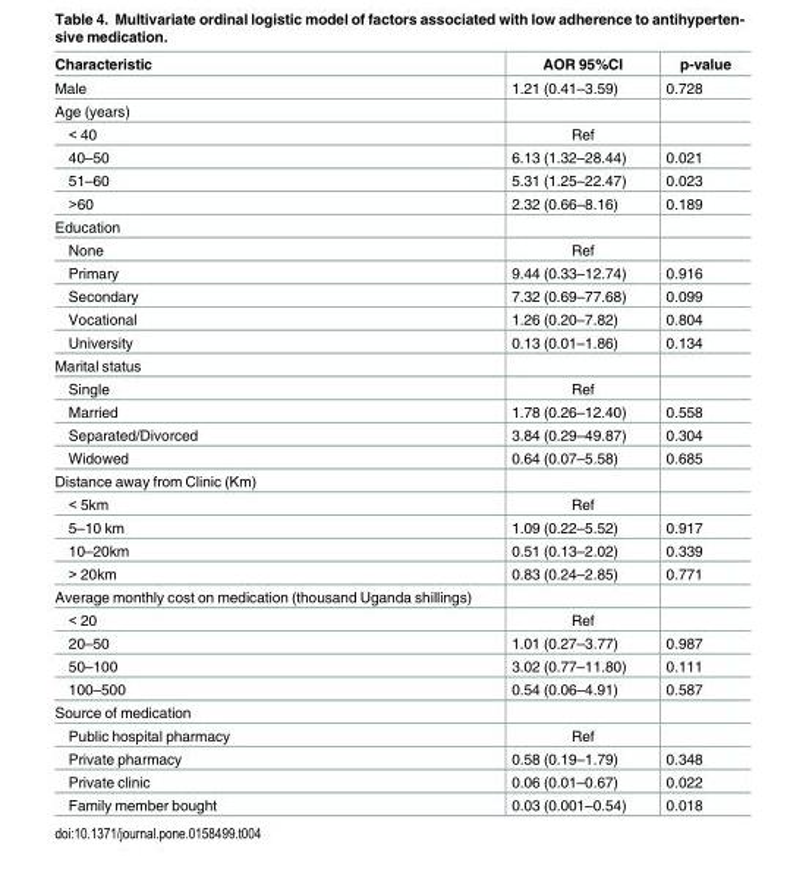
<table><thead><tr><td>Characteristic</td><td>AOR 95%CI</td><td>p-value</td></tr></thead><tbody><tr><td>Male</td><td>1.21 (0.41–3.59)</td><td>0.728</td></tr><tr><td colspan="3">Age (years)</td></tr><tr><td>&lt; 40</td><td>Ref</td><td></td></tr><tr><td>40–50</td><td>6.13 (1.32–28.44)</td><td>0.021</td></tr><tr><td>51–60</td><td>5.31 (1.25–22.47)</td><td>0.023</td></tr><tr><td>&gt;60</td><td>2.32 (0.66–8.16)</td><td>0.189</td></tr><tr><td colspan="3">Education</td></tr><tr><td>None</td><td>Ref</td><td></td></tr><tr><td>Primary</td><td>9.44 (0.33–12.74)</td><td>0.916</td></tr><tr><td>Secondary</td><td>7.32 (0.69–77.68)</td><td>0.099</td></tr><tr><td>Vocational</td><td>1.26 (0.20–7.82)</td><td>0.804</td></tr><tr><td>University</td><td>0.13 (0.01–1.86)</td><td>0.134</td></tr><tr><td colspan="3">Marital status</td></tr><tr><td>Single</td><td>Ref</td><td></td></tr><tr><td>Married</td><td>1.78 (0.26–12.40)</td><td>0.558</td></tr><tr><td>Separated/Divorced</td><td>3.84 (0.29–49.87)</td><td>0.304</td></tr><tr><td>Widowed</td><td>0.64 (0.07–5.58)</td><td>0.685</td></tr><tr><td colspan="3">Distance away from Clinic (Km)</td></tr><tr><td>&lt; 5km</td><td>Ref</td><td></td></tr><tr><td>5–10 km</td><td>1.09 (0.22–5.52)</td><td>0.917</td></tr><tr><td>10–20km</td><td>0.51 (0.13–2.02)</td><td>0.339</td></tr><tr><td>&gt; 20km</td><td>0.83 (0.24–2.85)</td><td>0.771</td></tr><tr><td colspan="3">Average monthly cost on medication (thousand Uganda shillings)</td></tr><tr><td>&lt; 20</td><td>Ref</td><td></td></tr><tr><td>20–50</td><td>1.01 (0.27–3.77)</td><td>0.987</td></tr><tr><td>50–100</td><td>3.02 (0.77–11.80)</td><td>0.111</td></tr><tr><td>100–500</td><td>0.54 (0.06–4.91)</td><td>0.587</td></tr><tr><td colspan="3">Source of medication</td></tr><tr><td>Public hospital pharmacy</td><td>Ref</td><td></td></tr><tr><td>Private pharmacy</td><td>0.58 (0.19–1.79)</td><td>0.348</td></tr><tr><td>Private clinic</td><td>0.06 (0.01–0.67)</td><td>0.022</td></tr><tr><td>Family member bought</td><td>0.03 (0.001–0.54)</td><td>0.018</td></tr></tbody></table>